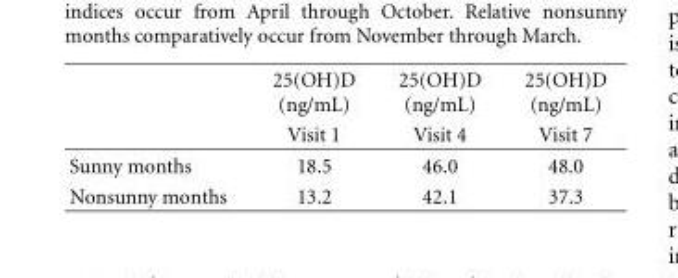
<table><thead><tr><td rowspan="2"></td><td rowspan="2">25(OH)D (ng/mL) Visit 1</td><td rowspan="2">25(OH)D (ng/mL) Visit 4</td><td rowspan="2">25(OH)D (ng/mL) Visit 7</td></tr><tr></tr></thead><tbody><tr><td>Sunny months</td><td>18.5</td><td>46.0</td><td>48.0</td></tr><tr><td>Nonsunny months</td><td>13.2</td><td>42.1</td><td>37.3</td></tr></tbody></table>